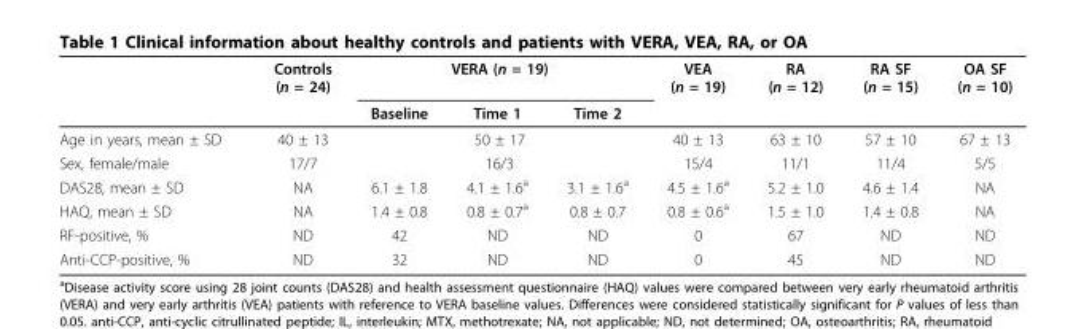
<table><thead><tr><td rowspan="2"></td><td rowspan="2">Controls (n = 24)</td><td colspan="3">VERA (n = 19)</td><td rowspan="2">VEA (n = 19)</td><td rowspan="2">RA (n = 12)</td><td rowspan="2">RA SF (n = 15)</td><td rowspan="2">OA SF (n = 10)</td></tr><tr><td>Baseline</td><td>Time 1</td><td>Time 2</td></tr></thead><tbody><tr><td>Age in years, mean ± SD</td><td>40 ± 13</td><td colspan="3">50 ± 17</td><td>40 ± 13</td><td>63 ± 10</td><td>57 ± 10</td><td>67 ± 13</td></tr><tr><td>Sex, female/male</td><td>17/7</td><td colspan="3">16/3</td><td>15/4</td><td>11/1</td><td>11/4</td><td>5/5</td></tr><tr><td>DAS28, mean ± SD</td><td>NA</td><td>6.1 ± 1.8</td><td>4.1 ± 1.6<sup>a</sup></td><td>3.1 ± 1.6<sup>a</sup></td><td>4.5 ± 1.6<sup>a</sup></td><td>5.2 ± 1.0</td><td>4.6 ± 1.4</td><td>NA</td></tr><tr><td>HAQ, mean ± SD</td><td>NA</td><td>1.4 ± 0.8</td><td>0.8 ± 0.7<sup>a</sup></td><td>0.8 ± 0.7</td><td>0.8 ± 0.6<sup>a</sup></td><td>1.5 ± 1.0</td><td>1.4 ± 0.8</td><td>NA</td></tr><tr><td>RF-positive, %</td><td>ND</td><td>42</td><td>ND</td><td>ND</td><td>0</td><td>67</td><td>ND</td><td>ND</td></tr><tr><td>Anti-CCP-positive, %</td><td>ND</td><td>32</td><td>ND</td><td>ND</td><td>0</td><td>45</td><td>ND</td><td>ND</td></tr></tbody></table>